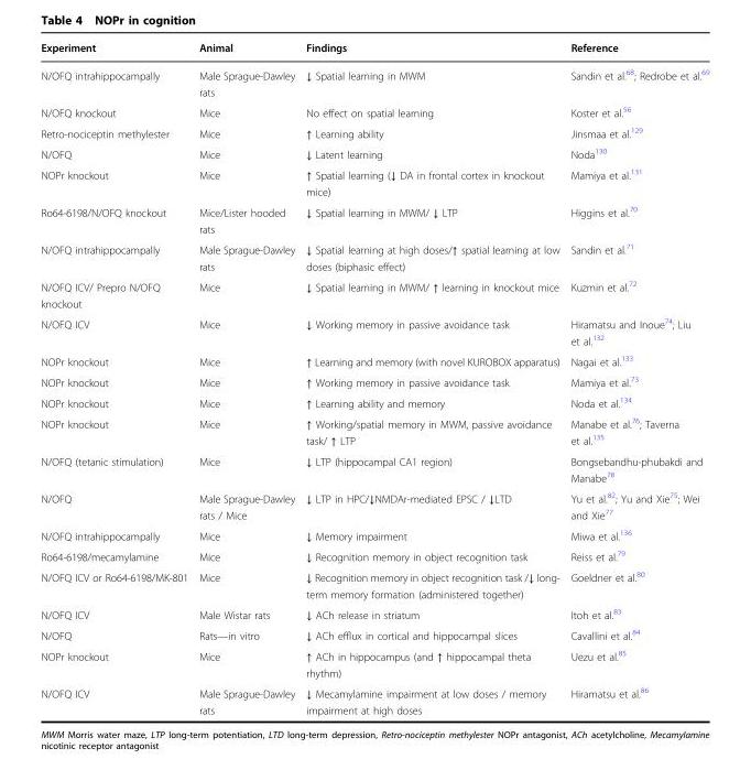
<table><thead><tr><td>Experiment</td><td>Animal</td><td>Findings</td><td>Reference</td></tr></thead><tbody><tr><td>N/OFQ intrahippocampally</td><td>Male Sprague-Dawley rats</td><td>↓ Spatial learning in MWM</td><td>Sandin et al.<sup>68</sup>; Redrobe et al.<sup>69</sup></td></tr><tr><td>N/OFQ knockout</td><td>Mice</td><td>No effect on spatial learning</td><td>Koster et al.<sup>56</sup></td></tr><tr><td>Retro-nociceptin methylester</td><td>Mice</td><td>↑ Learning ability</td><td>Jinsmaa et al.<sup>129</sup></td></tr><tr><td>N/OFQ</td><td>Mice</td><td>↓ Latent learning</td><td>Noda<sup>130</sup></td></tr><tr><td>NOPr knockout</td><td>Mice</td><td>↑ Spatial learning (↓ DA in frontal cortex in knockout mice)</td><td>Mamiya et al.<sup>131</sup></td></tr><tr><td>Ro64-6198/N/OFQ knockout</td><td>Mice/Lister hooded rats</td><td>↓ Spatial learning in MWM/ ↓ LTP</td><td>Higgins et al.<sup>70</sup></td></tr><tr><td>N/OFQ intrahippocampally</td><td>Male Sprague-Dawley rats</td><td>↓ Spatial learning at high doses/↑ spatial learning at low doses (biphasic effect)</td><td>Sandin et al.<sup>71</sup></td></tr><tr><td>N/OFQ ICV/ Prepro N/OFQ knockout</td><td>Mice</td><td>↓ Spatial learning in MWM/ ↑ learning in knockout mice</td><td>Kuzmin et al.<sup>72</sup></td></tr><tr><td>N/OFQ ICV</td><td>Mice</td><td>↓ Working memory in passive avoidance task</td><td>Hiramatsu and Inoue<sup>74</sup>; Liu et al.<sup>132</sup></td></tr><tr><td>NOPr knockout</td><td>Mice</td><td>↑ Learning and memory (with novel KUROBOX apparatus)</td><td>Nagai et al.<sup>133</sup></td></tr><tr><td>NOPr knockout</td><td>Mice</td><td>↑ Working memory in passive avoidance task</td><td>Mamiya et al.<sup>73</sup></td></tr><tr><td>NOPr knockout</td><td>Mice</td><td>↑ Learning ability and memory</td><td>Noda et al.<sup>134</sup></td></tr><tr><td>NOPr knockout</td><td>Mice</td><td>↑ Working/spatial memory in MWM, passive avoidance task/ ↑ LTP</td><td>Manabe et al.<sup>76</sup>; Taverna et al.<sup>135</sup></td></tr><tr><td>N/OFQ (tetanic stimulation)</td><td>Mice</td><td>↓ LTP (hippocampal CA1 region)</td><td>Bongsebandhu-phubakdi and Manabe<sup>78</sup></td></tr><tr><td>N/OFQ</td><td>Male Sprague-Dawley rats / Mice</td><td>↓ LTP in HPC/↓NMDAr-mediated EPSC / ↓LTD</td><td>Yu et al.<sup>82</sup>; Yu and Xie<sup>75</sup>; Wei and Xie<sup>77</sup></td></tr><tr><td>N/OFQ intrahippocampally</td><td>Mice</td><td>↓ Memory impairment</td><td>Miwa et al.<sup>136</sup></td></tr><tr><td>Ro64-6198/mecamylamine</td><td>Mice</td><td>↓ Recognition memory in object recognition task</td><td>Reiss et al.<sup>79</sup></td></tr><tr><td>N/OFQ ICV or Ro64-6198/MK-801</td><td>Mice</td><td>↓ Recognition memory in object recognition task /↓ long- term memory formation (administered together)</td><td>Goeldner et al.<sup>80</sup></td></tr><tr><td>N/OFQ ICV</td><td>Male Wistar rats</td><td>↓ ACh release in striatum</td><td>Itoh et al.<sup>83</sup></td></tr><tr><td>N/OFQ</td><td>Rats—in vitro</td><td>↓ ACh efflux in cortical and hippocampal slices</td><td>Cavallini et al.<sup>84</sup></td></tr><tr><td>NOPr knockout</td><td>Mice</td><td>↑ ACh in hippocampus (and ↑ hippocampal theta rhythm)</td><td>Uezu et al.<sup>85</sup></td></tr><tr><td>N/OFQ ICV</td><td>Male Sprague-Dawley rats</td><td>↓ Mecamylamine impairment at low doses / memory impairment at high doses</td><td>Hiramatsu et al.<sup>86</sup></td></tr></tbody></table>